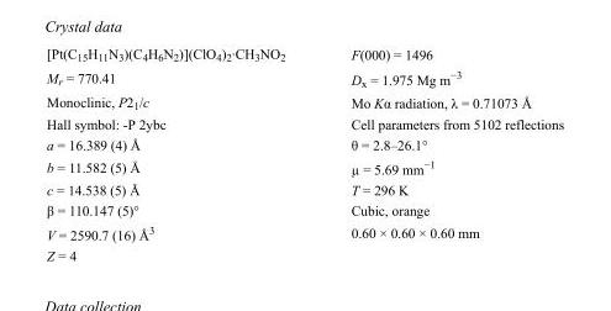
<table><tbody><tr><td>[Pt(C<sub>15</sub>H<sub>11</sub>N<sub>3</sub>)(C<sub>4</sub>H<sub>6</sub>N<sub>2</sub>)](ClO<sub>4</sub>)<sub>2</sub>·CH<sub>3</sub>NO<sub>2</sub></td><td>F(000) = 1496</td></tr><tr><td>M<sub>r</sub> = 770.41</td><td>D<sub>x</sub> = 1.975 Mg m<sup>−3</sup></td></tr><tr><td>Monoclinic, P2<sub>1</sub>/c</td><td>Mo Kα radiation, λ = 0.71073 Å</td></tr><tr><td>Hall symbol: -P 2ybc</td><td>Cell parameters from 5102 reflections</td></tr><tr><td>a = 16.389 (4) Å</td><td>θ = 2.8–26.1°</td></tr><tr><td>b = 11.582 (5) Å</td><td>µ = 5.69 mm<sup>−1</sup></td></tr><tr><td>c = 14.538 (5) Å</td><td>T = 296 K</td></tr><tr><td>β = 110.147 (5)°</td><td>Cubic, orange</td></tr><tr><td>V = 2590.7 (16) Å<sup>3</sup></td><td>0.60 × 0.60 × 0.60 mm</td></tr><tr><td>Z = 4</td><td></td></tr></tbody></table>